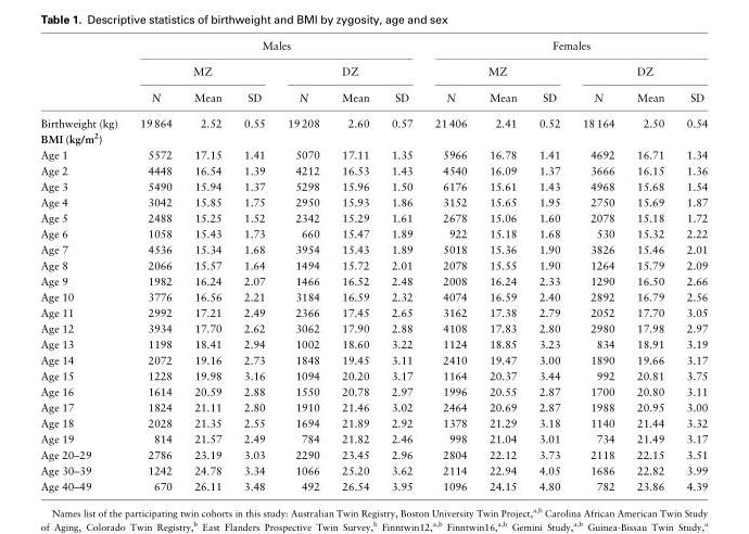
<table><thead><tr><td rowspan="3"></td><td colspan="6">Males</td><td colspan="6">Females</td></tr><tr><td colspan="3">MZ</td><td colspan="3">DZ</td><td colspan="3">MZ</td><td colspan="3">DZ</td></tr><tr><td>N</td><td>Mean</td><td>SD</td><td>N</td><td>Mean</td><td>SD</td><td>N</td><td>Mean</td><td>SD</td><td>N</td><td>Mean</td><td>SD</td></tr></thead><tbody><tr><td>Birthweight (kg)</td><td>19 864</td><td>2.52</td><td>0.55</td><td>19 208</td><td>2.60</td><td>0.57</td><td>21 406</td><td>2.41</td><td>0.52</td><td>18 164</td><td>2.50</td><td>0.54</td></tr><tr><td colspan="13">BMI (kg/m<sup>2</sup>)</td></tr><tr><td>Age 1</td><td>5572</td><td>17.15</td><td>1.41</td><td>5070</td><td>17.11</td><td>1.35</td><td>5966</td><td>16.78</td><td>1.41</td><td>4692</td><td>16.71</td><td>1.34</td></tr><tr><td>Age 2</td><td>4448</td><td>16.54</td><td>1.39</td><td>4212</td><td>16.53</td><td>1.43</td><td>4540</td><td>16.09</td><td>1.37</td><td>3666</td><td>16.15</td><td>1.36</td></tr><tr><td>Age 3</td><td>5490</td><td>15.94</td><td>1.37</td><td>5298</td><td>15.96</td><td>1.50</td><td>6176</td><td>15.61</td><td>1.43</td><td>4968</td><td>15.68</td><td>1.54</td></tr><tr><td>Age 4</td><td>3042</td><td>15.85</td><td>1.75</td><td>2950</td><td>15.93</td><td>1.86</td><td>3152</td><td>15.65</td><td>1.95</td><td>2750</td><td>15.69</td><td>1.87</td></tr><tr><td>Age 5</td><td>2488</td><td>15.25</td><td>1.52</td><td>2342</td><td>15.29</td><td>1.61</td><td>2678</td><td>15.06</td><td>1.60</td><td>2078</td><td>15.18</td><td>1.72</td></tr><tr><td>Age 6</td><td>1058</td><td>15.43</td><td>1.73</td><td>660</td><td>15.47</td><td>1.89</td><td>922</td><td>15.18</td><td>1.68</td><td>530</td><td>15.32</td><td>2.22</td></tr><tr><td>Age 7</td><td>4536</td><td>15.34</td><td>1.68</td><td>3954</td><td>15.43</td><td>1.89</td><td>5018</td><td>15.36</td><td>1.90</td><td>3826</td><td>15.46</td><td>2.01</td></tr><tr><td>Age 8</td><td>2066</td><td>15.57</td><td>1.64</td><td>1494</td><td>15.72</td><td>2.01</td><td>2078</td><td>15.55</td><td>1.90</td><td>1264</td><td>15.79</td><td>2.09</td></tr><tr><td>Age 9</td><td>1982</td><td>16.24</td><td>2.07</td><td>1466</td><td>16.52</td><td>2.48</td><td>2008</td><td>16.24</td><td>2.33</td><td>1290</td><td>16.50</td><td>2.66</td></tr><tr><td>Age 10</td><td>3776</td><td>16.56</td><td>2.21</td><td>3184</td><td>16.59</td><td>2.32</td><td>4074</td><td>16.59</td><td>2.40</td><td>2892</td><td>16.79</td><td>2.56</td></tr><tr><td>Age 11</td><td>2992</td><td>17.21</td><td>2.49</td><td>2366</td><td>17.45</td><td>2.65</td><td>3162</td><td>17.38</td><td>2.79</td><td>2052</td><td>17.70</td><td>3.05</td></tr><tr><td>Age 12</td><td>3934</td><td>17.70</td><td>2.62</td><td>3062</td><td>17.90</td><td>2.88</td><td>4108</td><td>17.83</td><td>2.80</td><td>2980</td><td>17.98</td><td>2.97</td></tr><tr><td>Age 13</td><td>1198</td><td>18.41</td><td>2.94</td><td>1002</td><td>18.60</td><td>3.22</td><td>1124</td><td>18.85</td><td>3.23</td><td>834</td><td>18.91</td><td>3.19</td></tr><tr><td>Age 14</td><td>2072</td><td>19.16</td><td>2.73</td><td>1848</td><td>19.45</td><td>3.11</td><td>2410</td><td>19.47</td><td>3.00</td><td>1890</td><td>19.66</td><td>3.17</td></tr><tr><td>Age 15</td><td>1228</td><td>19.98</td><td>3.16</td><td>1094</td><td>20.20</td><td>3.17</td><td>1164</td><td>20.37</td><td>3.44</td><td>992</td><td>20.81</td><td>3.75</td></tr><tr><td>Age 16</td><td>1614</td><td>20.59</td><td>2.88</td><td>1550</td><td>20.78</td><td>2.97</td><td>1996</td><td>20.55</td><td>2.87</td><td>1700</td><td>20.80</td><td>3.11</td></tr><tr><td>Age 17</td><td>1824</td><td>21.11</td><td>2.80</td><td>1910</td><td>21.46</td><td>3.02</td><td>2464</td><td>20.69</td><td>2.87</td><td>1988</td><td>20.95</td><td>3.00</td></tr><tr><td>Age 18</td><td>2028</td><td>21.35</td><td>2.55</td><td>1694</td><td>21.89</td><td>2.92</td><td>1378</td><td>21.29</td><td>3.18</td><td>1140</td><td>21.44</td><td>3.32</td></tr><tr><td>Age 19</td><td>814</td><td>21.57</td><td>2.49</td><td>784</td><td>21.82</td><td>2.46</td><td>998</td><td>21.04</td><td>3.01</td><td>734</td><td>21.49</td><td>3.17</td></tr><tr><td>Age 20–29</td><td>2786</td><td>23.19</td><td>3.03</td><td>2290</td><td>23.45</td><td>2.96</td><td>2804</td><td>22.12</td><td>3.73</td><td>2118</td><td>22.15</td><td>3.51</td></tr><tr><td>Age 30–39</td><td>1242</td><td>24.78</td><td>3.34</td><td>1066</td><td>25.20</td><td>3.62</td><td>2114</td><td>22.94</td><td>4.05</td><td>1686</td><td>22.82</td><td>3.99</td></tr><tr><td>Age 40–49</td><td>670</td><td>26.11</td><td>3.48</td><td>492</td><td>26.54</td><td>3.95</td><td>1096</td><td>24.15</td><td>4.80</td><td>782</td><td>23.86</td><td>4.39</td></tr></tbody></table>